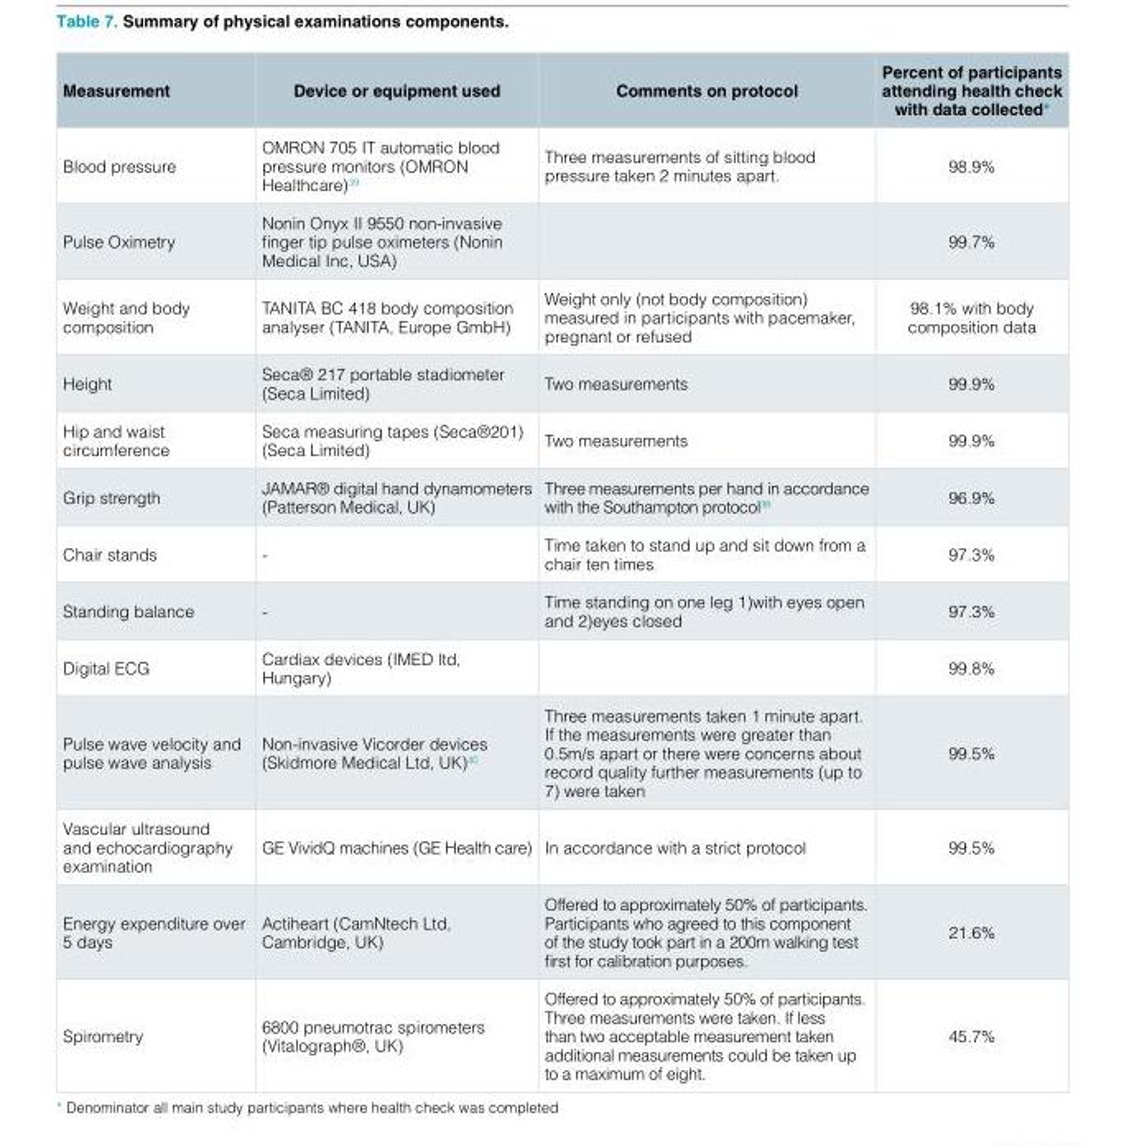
<table><thead><tr><td>Measurement</td><td>Device or equipment used</td><td>Comments on protocol</td><td>Percent of participants attending health check with data collected*</td></tr></thead><tbody><tr><td>Blood pressure</td><td>OMRON 705 IT automatic blood pressure monitors (OMRON Healthcare)<sup>39</sup></td><td>Three measurements of sitting blood pressure taken 2 minutes apart.</td><td>98.9%</td></tr><tr><td>Pulse Oximetry</td><td>Nonin Onyx II 9550 non-invasive finger tip pulse oximeters (Nonin Medical Inc, USA)</td><td></td><td>99.7%</td></tr><tr><td>Weight and body composition</td><td>TANITA BC 418 body composition analyser (TANITA, Europe GmbH)</td><td>Weight only (not body composition) measured in participants with pacemaker, pregnant or refused</td><td>98.1% with body composition data</td></tr><tr><td>Height</td><td>Seca® 217 portable stadiometer (Seca Limited)</td><td>Two measurements</td><td>99.9%</td></tr><tr><td>Hip and waist circumference</td><td>Seca measuring tapes (Seca®201) (Seca Limited)</td><td>Two measurements</td><td>99.9%</td></tr><tr><td>Grip strength</td><td>JAMAR® digital hand dynamometers (Patterson Medical, UK)</td><td>Three measurements per hand in accordance with the Southampton protocol<sup>38</sup></td><td>96.9%</td></tr><tr><td>Chair stands</td><td>-</td><td>Time taken to stand up and sit down from a chair ten times</td><td>97.3%</td></tr><tr><td>Standing balance</td><td>-</td><td>Time standing on one leg 1)with eyes open and 2)eyes closed</td><td>97.3%</td></tr><tr><td>Digital ECG</td><td>Cardiax devices (IMED ltd, Hungary)</td><td></td><td>99.8%</td></tr><tr><td>Pulse wave velocity and pulse wave analysis</td><td>Non-invasive Vicorder devices (Skidmore Medical Ltd, UK)<sup>40</sup></td><td>Three measurements taken 1 minute apart. If the measurements were greater than 0.5m/s apart or there were concerns about record quality further measurements (up to 7) were taken</td><td>99.5%</td></tr><tr><td>Vascular ultrasound and echocardiography examination</td><td>GE VividQ machines (GE Health care)</td><td>In accordance with a strict protocol</td><td>99.5%</td></tr><tr><td>Energy expenditure over 5 days</td><td>Actiheart (CamNtech Ltd, Cambridge, UK)</td><td>Offered to approximately 50% of participants. Participants who agreed to this component of the study took part in a 200m walking test first for calibration purposes.</td><td>21.6%</td></tr><tr><td>Spirometry</td><td>6800 pneumotrac spirometers (Vitalograph®, UK)</td><td>Offered to approximately 50% of participants. Three measurements were taken. If less than two acceptable measurement taken additional measurements could be taken up to a maximum of eight.</td><td>45.7%</td></tr></tbody></table>